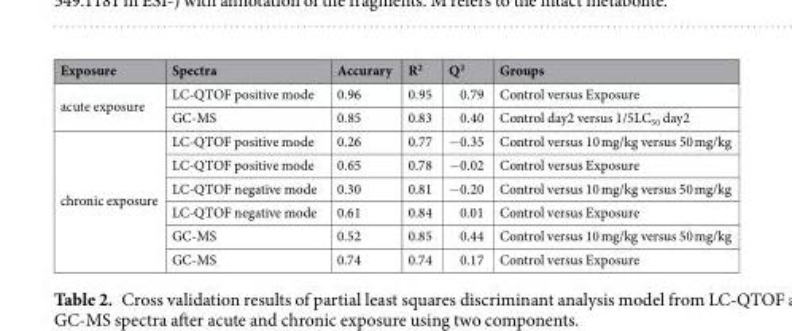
<table><thead><tr><td>Exposure</td><td>Spectra</td><td>Accurary</td><td>R<sup>2</sup></td><td>Q<sup>2</sup></td><td>Groups</td></tr></thead><tbody><tr><td rowspan="2">acute exposure</td><td>LC-QTOF positive mode</td><td>0.96</td><td>0.95</td><td>0.79</td><td>Control versus Exposure</td></tr><tr><td>GC-MS</td><td>0.85</td><td>0.83</td><td>0.40</td><td>Control day2 versus 1/5LC<sub>50</sub> day2</td></tr><tr><td rowspan="6">chronic exposure</td><td>LC-QTOF positive mode</td><td>0.26</td><td>0.77</td><td>−0.35</td><td>Control versus 10 mg/kg versus 50 mg/kg</td></tr><tr><td>LC-QTOF positive mode</td><td>0.65</td><td>0.78</td><td>−0.02</td><td>Control versus Exposure</td></tr><tr><td>LC-QTOF negative mode</td><td>0.30</td><td>0.81</td><td>−0.20</td><td>Control versus 10 mg/kg versus 50 mg/kg</td></tr><tr><td>LC-QTOF negative mode</td><td>0.61</td><td>0.84</td><td>0.01</td><td>Control versus Exposure</td></tr><tr><td>GC-MS</td><td>0.52</td><td>0.85</td><td>0.44</td><td>Control versus 10 mg/kg versus 50 mg/kg</td></tr><tr><td>GC-MS</td><td>0.74</td><td>0.74</td><td>0.17</td><td>Control versus Exposure</td></tr></tbody></table>